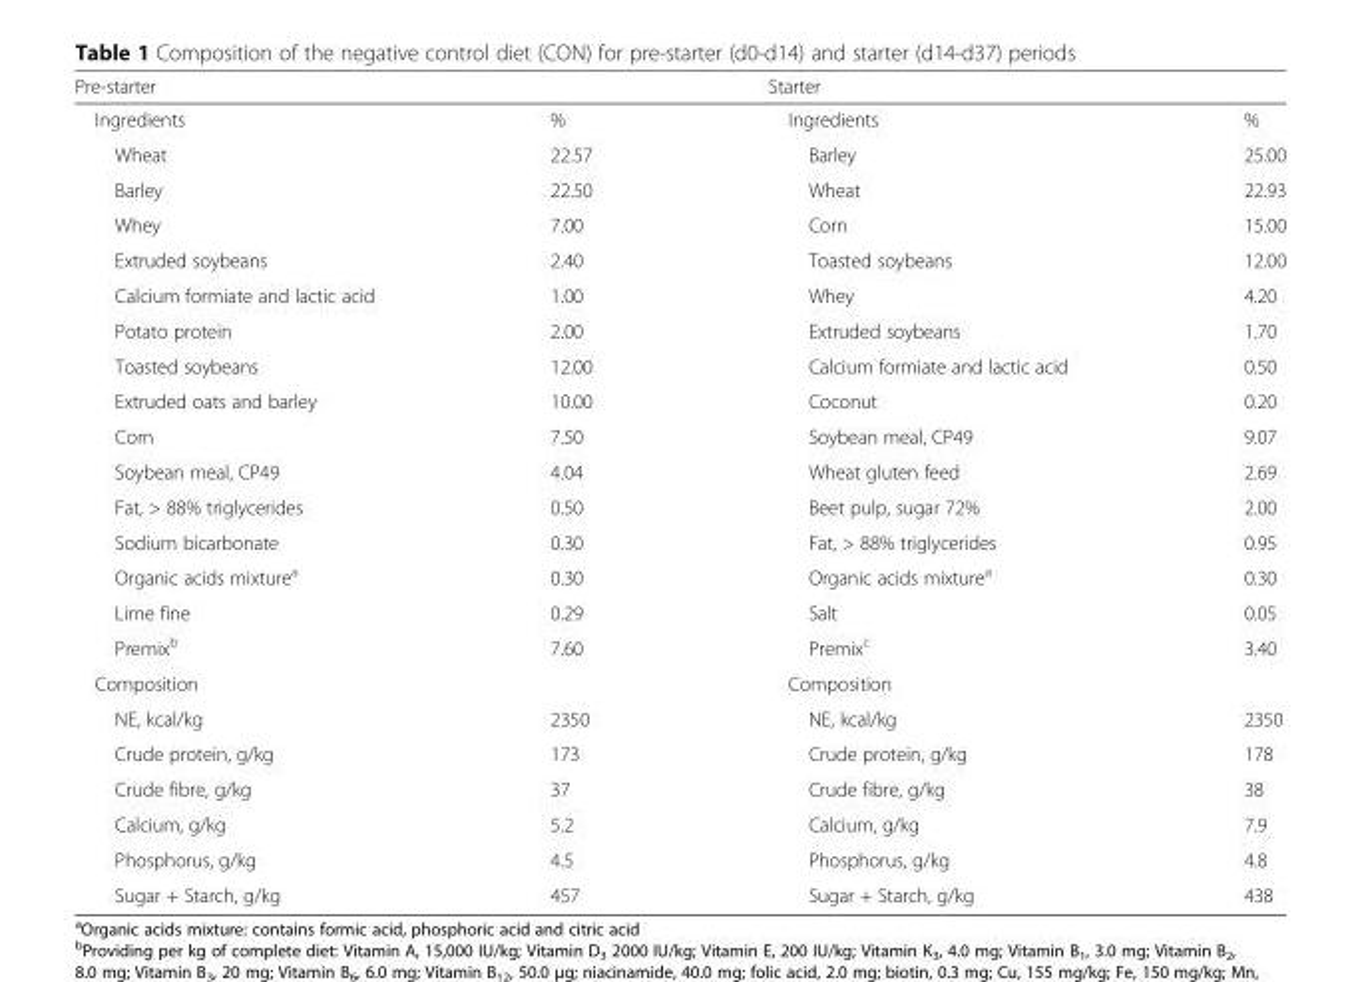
<table><thead><tr><td colspan="2">Pre-starter</td><td rowspan="2">Starter Ingredients</td><td rowspan="2">%</td></tr><tr><td>Ingredients</td><td>%</td></tr></thead><tbody><tr><td>Wheat</td><td>22.57</td><td>Barley</td><td>25.00</td></tr><tr><td>Barley</td><td>22.50</td><td>Wheat</td><td>22.93</td></tr><tr><td>Whey</td><td>7.00</td><td>Corn</td><td>15.00</td></tr><tr><td>Extruded soybeans</td><td>2.40</td><td>Toasted soybeans</td><td>12.00</td></tr><tr><td>Calcium formiate and lactic acid</td><td>1.00</td><td>Whey</td><td>4.20</td></tr><tr><td>Potato protein</td><td>2.00</td><td>Extruded soybeans</td><td>1.70</td></tr><tr><td>Toasted soybeans</td><td>12.00</td><td>Calcium formiate and lactic acid</td><td>0.50</td></tr><tr><td>Extruded oats and barley</td><td>10.00</td><td>Coconut</td><td>0.20</td></tr><tr><td>Corn</td><td>7.50</td><td>Soybean meal, CP49</td><td>9.07</td></tr><tr><td>Soybean meal, CP49</td><td>4.04</td><td>Wheat gluten feed</td><td>2.69</td></tr><tr><td>Fat, &gt; 88% triglycerides</td><td>0.50</td><td>Beet pulp, sugar 72%</td><td>2.00</td></tr><tr><td>Sodium bicarbonate</td><td>0.30</td><td>Fat, &gt; 88% triglycerides</td><td>0.95</td></tr><tr><td>Organic acids mixture<sup>a</sup></td><td>0.30</td><td>Organic acids mixture<sup>a</sup></td><td>0.30</td></tr><tr><td>Lime fine</td><td>0.29</td><td>Salt</td><td>0.05</td></tr><tr><td>Premix<sup>b</sup></td><td>7.60</td><td>Premix<sup>c</sup></td><td>3.40</td></tr><tr><td colspan="2">Composition</td><td colspan="2">Composition</td></tr><tr><td>NE, kcal/kg</td><td>2350</td><td>NE, kcal/kg</td><td>2350</td></tr><tr><td>Crude protein, g/kg</td><td>173</td><td>Crude protein, g/kg</td><td>178</td></tr><tr><td>Crude fibre, g/kg</td><td>37</td><td>Crude fibre, g/kg</td><td>38</td></tr><tr><td>Calcium, g/kg</td><td>5.2</td><td>Calcium, g/kg</td><td>7.9</td></tr><tr><td>Phosphorus, g/kg</td><td>4.5</td><td>Phosphorus, g/kg</td><td>4.8</td></tr><tr><td>Sugar + Starch, g/kg</td><td>457</td><td>Sugar + Starch, g/kg</td><td>438</td></tr></tbody></table>